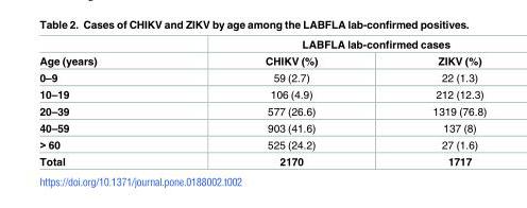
<table><thead><tr><td rowspan="2">Age (years)</td><td colspan="2">LABFLA lab-confirmed cases</td></tr><tr><td>CHIKV (%)</td><td>ZIKV (%)</td></tr></thead><tbody><tr><td>0–9</td><td>59 (2.7)</td><td>22 (1.3)</td></tr><tr><td>10–19</td><td>106 (4.9)</td><td>212 (12.3)</td></tr><tr><td>20–39</td><td>577 (26.6)</td><td>1319 (76.8)</td></tr><tr><td>40–59</td><td>903 (41.6)</td><td>137 (8)</td></tr><tr><td>&gt; 60</td><td>525 (24.2)</td><td>27 (1.6)</td></tr><tr><td>Total</td><td>2170</td><td>1717</td></tr></tbody></table>